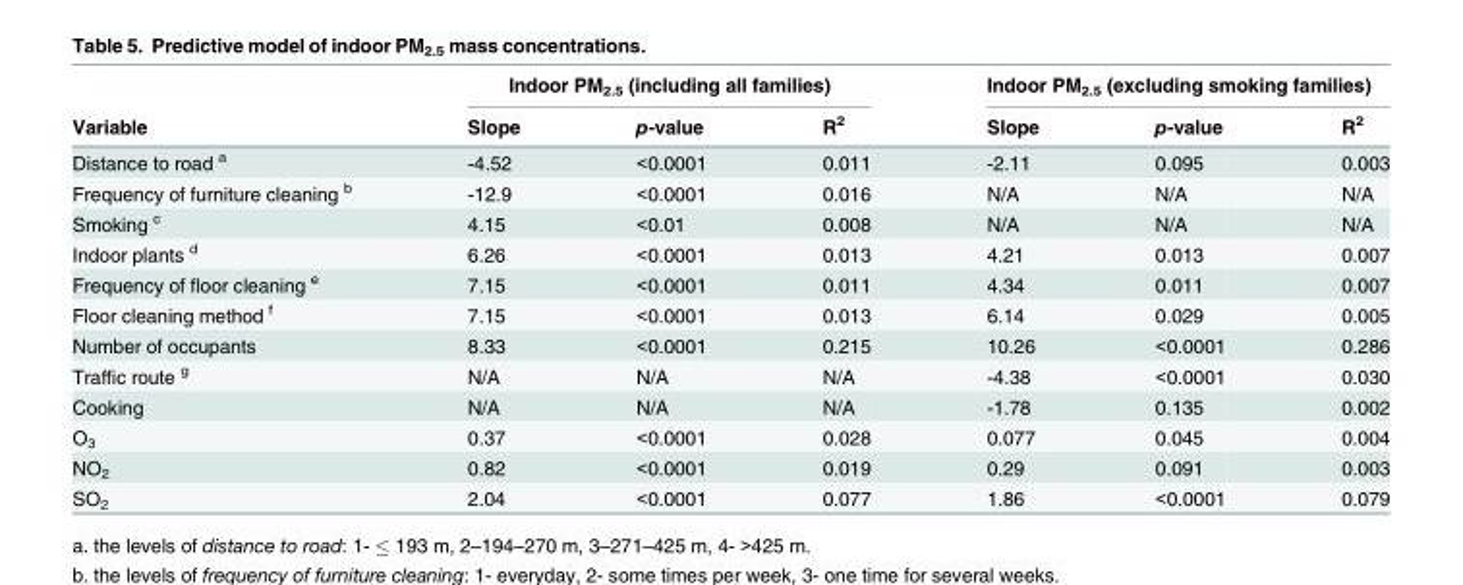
<table><thead><tr><td rowspan="2">Variable</td><td colspan="3">Indoor PM<sub>2.5</sub> (including all families)</td><td colspan="3">Indoor PM<sub>2.5</sub> (excluding smoking families)</td></tr><tr><td>Slope</td><td>p-value</td><td>R<sup>2</sup></td><td>Slope</td><td>p-value</td><td>R<sup>2</sup></td></tr></thead><tbody><tr><td>Distance to road <sup>a</sup></td><td>-4.52</td><td>&lt;0.0001</td><td>0.011</td><td>-2.11</td><td>0.095</td><td>0.003</td></tr><tr><td>Frequency of furniture cleaning <sup>b</sup></td><td>-12.9</td><td>&lt;0.0001</td><td>0.016</td><td>N/A</td><td>N/A</td><td>N/A</td></tr><tr><td>Smoking <sup>c</sup></td><td>4.15</td><td>&lt;0.01</td><td>0.008</td><td>N/A</td><td>N/A</td><td>N/A</td></tr><tr><td>Indoor plants <sup>d</sup></td><td>6.26</td><td>&lt;0.0001</td><td>0.013</td><td>4.21</td><td>0.013</td><td>0.007</td></tr><tr><td>Frequency of floor cleaning <sup>e</sup></td><td>7.15</td><td>&lt;0.0001</td><td>0.011</td><td>4.34</td><td>0.011</td><td>0.007</td></tr><tr><td>Floor cleaning method <sup>f</sup></td><td>7.15</td><td>&lt;0.0001</td><td>0.013</td><td>6.14</td><td>0.029</td><td>0.005</td></tr><tr><td>Number of occupants</td><td>8.33</td><td>&lt;0.0001</td><td>0.215</td><td>10.26</td><td>&lt;0.0001</td><td>0.286</td></tr><tr><td>Traffic route <sup>g</sup></td><td>N/A</td><td>N/A</td><td>N/A</td><td>-4.38</td><td>&lt;0.0001</td><td>0.030</td></tr><tr><td>Cooking</td><td>N/A</td><td>N/A</td><td>N/A</td><td>-1.78</td><td>0.135</td><td>0.002</td></tr><tr><td>O<sub>3</sub></td><td>0.37</td><td>&lt;0.0001</td><td>0.028</td><td>0.077</td><td>0.045</td><td>0.004</td></tr><tr><td>NO<sub>2</sub></td><td>0.82</td><td>&lt;0.0001</td><td>0.019</td><td>0.29</td><td>0.091</td><td>0.003</td></tr><tr><td>SO<sub>2</sub></td><td>2.04</td><td>&lt;0.0001</td><td>0.077</td><td>1.86</td><td>&lt;0.0001</td><td>0.079</td></tr></tbody></table>